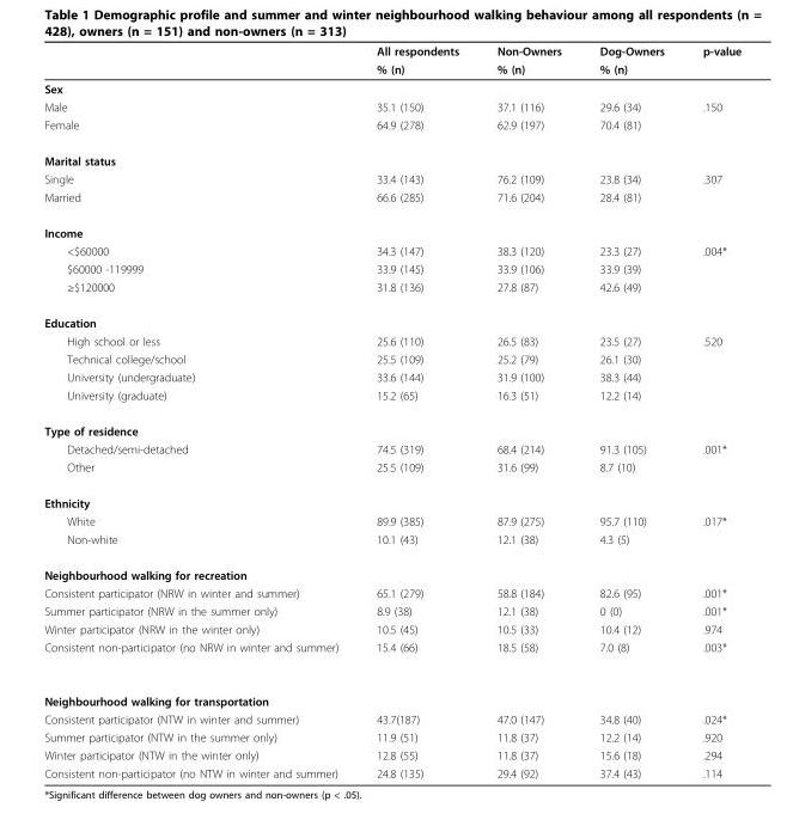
<table><thead><tr><td rowspan="2"></td><td rowspan="2">All respondents % (n)</td><td rowspan="2">Non-Owners % (n)</td><td rowspan="2">Dog-Owners % (n)</td><td rowspan="2">p-value</td></tr><tr></tr></thead><tbody><tr><td colspan="5">Sex</td></tr><tr><td>Male</td><td>35.1 (150)</td><td>37.1 (116)</td><td>29.6 (34)</td><td>.150</td></tr><tr><td>Female</td><td>64.9 (278)</td><td>62.9 (197)</td><td>70.4 (81)</td><td></td></tr><tr><td colspan="5">Marital status</td></tr><tr><td>Single</td><td>33.4 (143)</td><td>76.2 (109)</td><td>23.8 (34)</td><td>.307</td></tr><tr><td>Married</td><td>66.6 (285)</td><td>71.6 (204)</td><td>28.4 (81)</td><td></td></tr><tr><td colspan="5">Income</td></tr><tr><td>&lt;$60000</td><td>34.3 (147)</td><td>38.3 (120)</td><td>23.3 (27)</td><td>.004*</td></tr><tr><td>$60000 -119999</td><td>33.9 (145)</td><td>33.9 (106)</td><td>33.9 (39)</td><td></td></tr><tr><td>≥$120000</td><td>31.8 (136)</td><td>27.8 (87)</td><td>42.6 (49)</td><td></td></tr><tr><td colspan="5">Education</td></tr><tr><td>High school or less</td><td>25.6 (110)</td><td>26.5 (83)</td><td>23.5 (27)</td><td>.520</td></tr><tr><td>Technical college/school</td><td>25.5 (109)</td><td>25.2 (79)</td><td>26.1 (30)</td><td></td></tr><tr><td>University (undergraduate)</td><td>33.6 (144)</td><td>31.9 (100)</td><td>38.3 (44)</td><td></td></tr><tr><td>University (graduate)</td><td>15.2 (65)</td><td>16.3 (51)</td><td>12.2 (14)</td><td></td></tr><tr><td colspan="5">Type of residence</td></tr><tr><td>Detached/semi-detached</td><td>74.5 (319)</td><td>68.4 (214)</td><td>91.3 (105)</td><td>.001*</td></tr><tr><td>Other</td><td>25.5 (109)</td><td>31.6 (99)</td><td>8.7 (10)</td><td></td></tr><tr><td colspan="5">Ethnicity</td></tr><tr><td>White</td><td>89.9 (385)</td><td>87.9 (275)</td><td>95.7 (110)</td><td>.017*</td></tr><tr><td>Non-white</td><td>10.1 (43)</td><td>12.1 (38)</td><td>4.3 (5)</td><td></td></tr><tr><td colspan="5">Neighbourhood walking for recreation</td></tr><tr><td>Consistent participator (NRW in winter and summer)</td><td>65.1 (279)</td><td>58.8 (184)</td><td>82.6 (95)</td><td>.001*</td></tr><tr><td>Summer participator (NRW in the summer only)</td><td>8.9 (38)</td><td>12.1 (38)</td><td>0 (0)</td><td>.001*</td></tr><tr><td>Winter participator (NRW in the winter only)</td><td>10.5 (45)</td><td>10.5 (33)</td><td>10.4 (12)</td><td>.974</td></tr><tr><td>Consistent non-participator (no NRW in winter and summer)</td><td>15.4 (66)</td><td>18.5 (58)</td><td>7.0 (8)</td><td>.003*</td></tr><tr><td colspan="5">Neighbourhood walking for transportation</td></tr><tr><td>Consistent participator (NTW in winter and summer)</td><td>43.7(187)</td><td>47.0 (147)</td><td>34.8 (40)</td><td>.024*</td></tr><tr><td>Summer participator (NTW in the summer only)</td><td>11.9 (51)</td><td>11.8 (37)</td><td>12.2 (14)</td><td>.920</td></tr><tr><td>Winter participator (NTW in the winter only)</td><td>12.8 (55)</td><td>11.8 (37)</td><td>15.6 (18)</td><td>.294</td></tr><tr><td>Consistent non-participator (no NTW in winter and summer)</td><td>24.8 (135)</td><td>29.4 (92)</td><td>37.4 (43)</td><td>.114</td></tr></tbody></table>